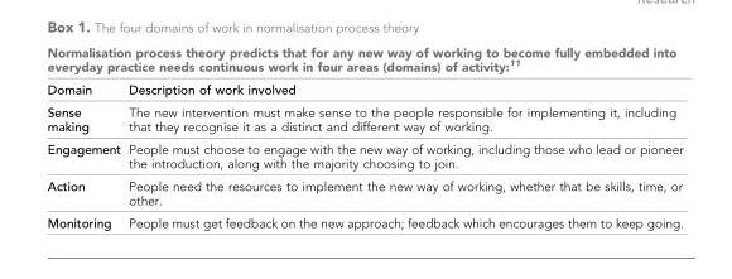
<table><thead><tr><td colspan="2">Normalisation process theory predicts that for any new way of working to become fully embedded into everyday practice needs continuous work in four areas (domains) of activity:<sup>11</sup></td></tr><tr><td>Domain</td><td>Description of work involved</td></tr></thead><tbody><tr><td>Sense making</td><td>The new intervention must make sense to the people responsible for implementing it, including that they recognise it as a distinct and different way of working.</td></tr><tr><td>Engagement</td><td>People must choose to engage with the new way of working, including those who lead or pioneer the introduction, along with the majority choosing to join.</td></tr><tr><td>Action</td><td>People need the resources to implement the new way of working, whether that be skills, time, or other.</td></tr><tr><td>Monitoring</td><td>People must get feedback on the new approach; feedback which encourages them to keep going.</td></tr></tbody></table>